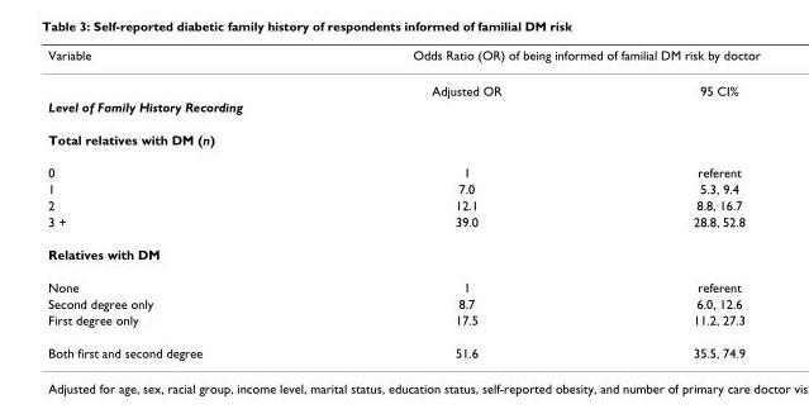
<table><thead><tr><td rowspan="2">Variable</td><td colspan="2">Odds Ratio (OR) of being informed of familial DM risk by doctor</td></tr><tr><td>Adjusted OR</td><td>95 CI%</td></tr></thead><tbody><tr><td colspan="3">Level of Family History Recording</td></tr><tr><td colspan="3">Total relatives with DM (n)</td></tr><tr><td>0</td><td>1</td><td>referent</td></tr><tr><td>1</td><td>7.0</td><td>5.3, 9.4</td></tr><tr><td>2</td><td>12.1</td><td>8.8, 16.7</td></tr><tr><td>3 +</td><td>39.0</td><td>28.8, 52.8</td></tr><tr><td colspan="3">Relatives with DM</td></tr><tr><td>None</td><td>1</td><td>referent</td></tr><tr><td>Second degree only</td><td>8.7</td><td>6.0, 12.6</td></tr><tr><td>First degree only</td><td>17.5</td><td>11.2, 27.3</td></tr><tr><td>Both first and second degree</td><td>51.6</td><td>35.5, 74.9</td></tr></tbody></table>